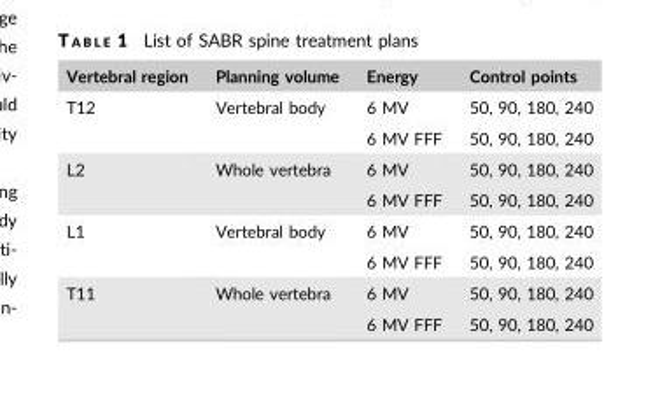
<table><thead><tr><td>Vertebral region</td><td>Planning volume</td><td>Energy</td><td>Control points</td></tr></thead><tbody><tr><td rowspan="2">T12</td><td rowspan="2">Vertebral body</td><td>6 MV</td><td>50, 90, 180, 240</td></tr><tr><td>6 MV FFF</td><td>50, 90, 180, 240</td></tr><tr><td rowspan="2">L2</td><td rowspan="2">Whole vertebra</td><td>6 MV</td><td>50, 90, 180, 240</td></tr><tr><td>6 MV FFF</td><td>50, 90, 180, 240</td></tr><tr><td rowspan="2">L1</td><td rowspan="2">Vertebral body</td><td>6 MV</td><td>50, 90, 180, 240</td></tr><tr><td>6 MV FFF</td><td>50, 90, 180, 240</td></tr><tr><td rowspan="2">T11</td><td rowspan="2">Whole vertebra</td><td>6 MV</td><td>50, 90, 180, 240</td></tr><tr><td>6 MV FFF</td><td>50, 90, 180, 240</td></tr></tbody></table>